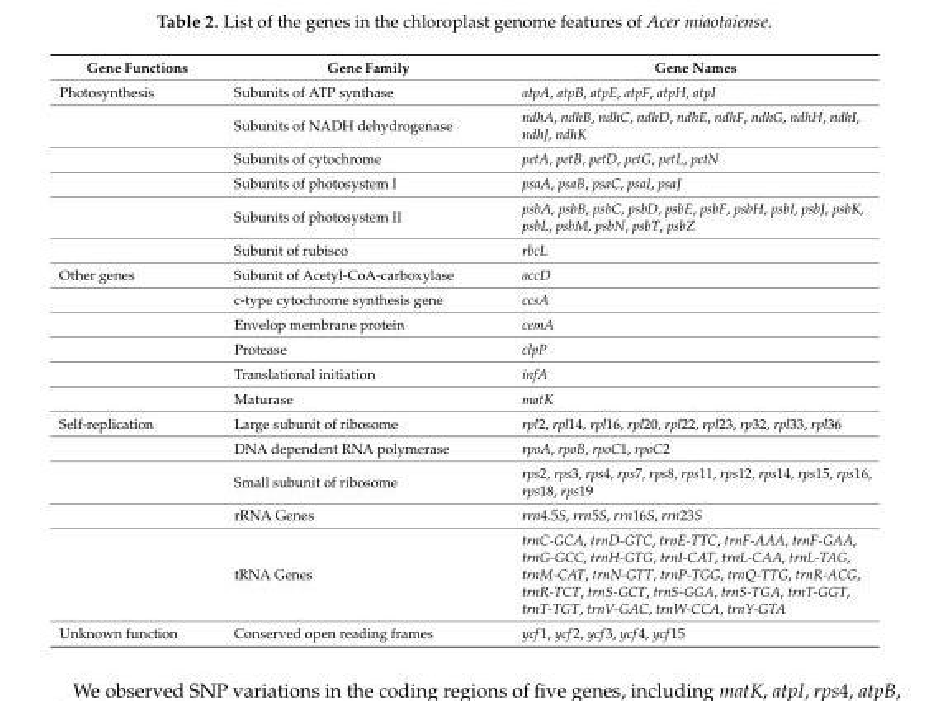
<table><thead><tr><td>Gene Functions</td><td>Gene Family</td><td>Gene Names</td></tr></thead><tbody><tr><td rowspan="6">Photosynthesis</td><td>Subunits of ATP synthase</td><td>atpA, atpB, atpE, atpF, atpH, atpI</td></tr><tr><td>Subunits of NADH dehydrogenase</td><td>ndhA, ndhB, ndhC, ndhD, ndhE, ndhF, ndhG, ndhH, ndhI, ndhJ, ndhK</td></tr><tr><td>Subunits of cytochrome</td><td>petA, petB, petD, petG, petL, petN</td></tr><tr><td>Subunits of photosystem I</td><td>psaA, psaB, psaC, psaI, psaJ</td></tr><tr><td>Subunits of photosystem II</td><td>psbA, psbB, psbC, psbD, psbE, psbF, psbH, psbI, psbJ, psbK, psbL, psbM, psbN, psbT, psbZ</td></tr><tr><td>Subunit of rubisco</td><td>rbcL</td></tr><tr><td rowspan="6">Other genes</td><td>Subunit of Acetyl-CoA-carboxylase</td><td>accD</td></tr><tr><td>c-type cytochrome synthesis gene</td><td>ccsA</td></tr><tr><td>Envelop membrane protein</td><td>cemA</td></tr><tr><td>Protease</td><td>clpP</td></tr><tr><td>Translational initiation</td><td>infA</td></tr><tr><td>Maturase</td><td>matK</td></tr><tr><td rowspan="5">Self-replication</td><td>Large subunit of ribosome</td><td>rpl2, rpl14, rpl16, rpl20, rpl22, rpl23, rp32, rpl33, rpl36</td></tr><tr><td>DNA dependent RNA polymerase</td><td>rpoA, rpoB, rpoC1, rpoC2</td></tr><tr><td>Small subunit of ribosome</td><td>rps2, rps3, rps4, rps7, rps8, rps11, rps12, rps14, rps15, rps16, rps18, rps19</td></tr><tr><td>rRNA Genes</td><td>rrn4.5S, rrn5S, rrn16S, rrn23S</td></tr><tr><td>tRNA Genes</td><td>trnC-GCA, trnD-GTC, trnE-TTC, trnF-AAA, trnF-GAA, trnG-GCC, trnH-GTG, trnI-CAT, trnL-CAA, trnL-TAG, trnM-CAT, trnN-GTT, trnP-TGG, trnQ-TTG, trnR-ACG, trnR-TCT, trnS-GCT, trnS-GGA, trnS-TGA, trnT-GGT, trnT-TGT, trnV-GAC, trnW-CCA, trnY-GTA</td></tr><tr><td>Unknown function</td><td>Conserved open reading frames</td><td>ycf1, ycf2, ycf3, ycf4, ycf15</td></tr></tbody></table>